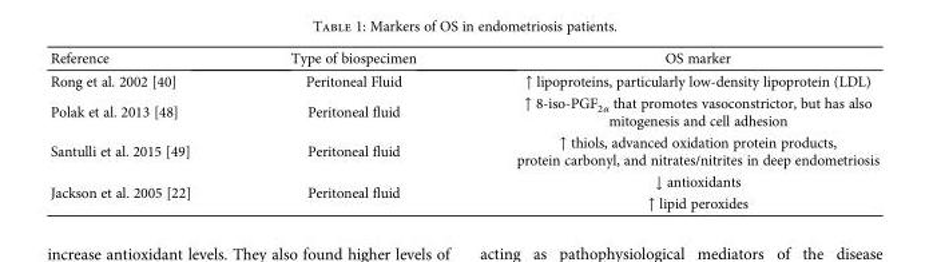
<table><thead><tr><td>Reference</td><td>Type of biospecimen</td><td>OS marker</td></tr></thead><tbody><tr><td>Rong et al. 2002 [40]</td><td>Peritoneal Fluid</td><td>↑ lipoproteins, particularly low-density lipoprotein (LDL)</td></tr><tr><td>Polak et al. 2013 [48]</td><td>Peritoneal fluid</td><td>↑ 8-iso-PGF<sub>2α</sub> that promotes vasoconstrictor, but has also mitogenesis and cell adhesion</td></tr><tr><td>Santulli et al. 2015 [49]</td><td>Peritoneal fluid</td><td>↑ thiols, advanced oxidation protein products, protein carbonyl, and nitrates/nitrites in deep endometriosis</td></tr><tr><td rowspan="2">Jackson et al. 2005 [22]</td><td rowspan="2">Peritoneal fluid</td><td>↓ antioxidants</td></tr><tr><td>↑ lipid peroxides</td></tr></tbody></table>